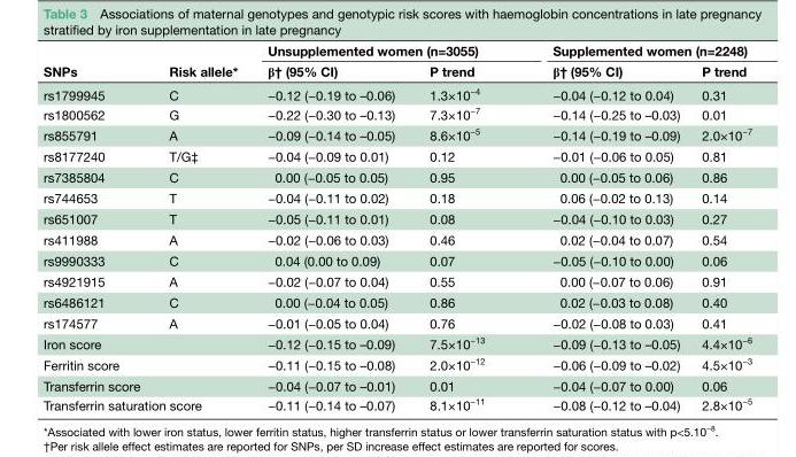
<table><thead><tr><td rowspan="2">SNPs</td><td rowspan="2">Risk allele*</td><td colspan="2">Unsupplemented women (n=3055)</td><td colspan="2">Supplemented women (n=2248)</td></tr><tr><td>β† (95% CI)</td><td>P trend</td><td>β† (95% CI)</td><td>P trend</td></tr></thead><tbody><tr><td>rs1799945</td><td>C</td><td>−0.12 (−0.19 to –0.06)</td><td>1.3×10<sup>−4</sup></td><td>−0.04 (−0.12 to 0.04)</td><td>0.31</td></tr><tr><td>rs1800562</td><td>G</td><td>−0.22 (−0.30 to –0.13)</td><td>7.3×10<sup>−7</sup></td><td>−0.14 (−0.25 to –0.03)</td><td>0.01</td></tr><tr><td>rs855791</td><td>A</td><td>−0.09 (−0.14 to –0.05)</td><td>8.6×10<sup>−5</sup></td><td>−0.14 (−0.19 to –0.09)</td><td>2.0×10<sup>−7</sup></td></tr><tr><td>rs8177240</td><td>T/G‡</td><td>−0.04 (−0.09 to 0.01)</td><td>0.12</td><td>−0.01 (−0.06 to 0.05)</td><td>0.81</td></tr><tr><td>rs7385804</td><td>C</td><td>0.00 (−0.05 to 0.05)</td><td>0.95</td><td>0.00 (−0.05 to 0.06)</td><td>0.86</td></tr><tr><td>rs744653</td><td>T</td><td>−0.04 (−0.11 to 0.02)</td><td>0.18</td><td>0.06 (−0.02 to 0.13)</td><td>0.14</td></tr><tr><td>rs651007</td><td>T</td><td>−0.05 (−0.11 to 0.01)</td><td>0.08</td><td>−0.04 (−0.10 to 0.03)</td><td>0.27</td></tr><tr><td>rs411988</td><td>A</td><td>−0.02 (−0.06 to 0.03)</td><td>0.46</td><td>0.02 (−0.04 to 0.07)</td><td>0.54</td></tr><tr><td>rs9990333</td><td>C</td><td>0.04 (0.00 to 0.09)</td><td>0.07</td><td>−0.05 (−0.10 to 0.00)</td><td>0.06</td></tr><tr><td>rs4921915</td><td>A</td><td>−0.02 (−0.07 to 0.04)</td><td>0.55</td><td>0.00 (−0.07 to 0.06)</td><td>0.91</td></tr><tr><td>rs6486121</td><td>C</td><td>0.00 (−0.04 to 0.05)</td><td>0.86</td><td>0.02 (−0.03 to 0.08)</td><td>0.40</td></tr><tr><td>rs174577</td><td>A</td><td>−0.01 (−0.05 to 0.04)</td><td>0.76</td><td>−0.02 (−0.08 to 0.03)</td><td>0.41</td></tr><tr><td colspan="2">Iron score</td><td>−0.12 (−0.15 to –0.09)</td><td>7.5×10<sup>−13</sup></td><td>−0.09 (−0.13 to –0.05)</td><td>4.4×10<sup>−6</sup></td></tr><tr><td colspan="2">Ferritin score</td><td>−0.11 (−0.15 to –0.08)</td><td>2.0×10<sup>−12</sup></td><td>−0.06 (−0.09 to –0.02)</td><td>4.5×10<sup>−3</sup></td></tr><tr><td colspan="2">Transferrin score</td><td>−0.04 (−0.07 to –0.01)</td><td>0.01</td><td>−0.04 (−0.07 to 0.00)</td><td>0.06</td></tr><tr><td colspan="2">Transferrin saturation score</td><td>−0.11 (−0.14 to –0.07)</td><td>8.1×10<sup>−11</sup></td><td>−0.08 (−0.12 to –0.04)</td><td>2.8×10<sup>−5</sup></td></tr></tbody></table>